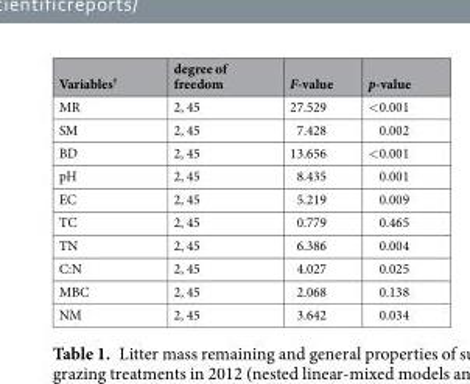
<table><thead><tr><td>Variables<sup>†</sup></td><td>degree of freedom</td><td>F-value</td><td>p-value</td></tr></thead><tbody><tr><td>MR</td><td>2, 45</td><td>27.529</td><td>&lt;0.001</td></tr><tr><td>SM</td><td>2, 45</td><td>7.428</td><td>0.002</td></tr><tr><td>BD</td><td>2, 45</td><td>13.656</td><td>&lt;0.001</td></tr><tr><td>pH</td><td>2, 45</td><td>8.435</td><td>0.001</td></tr><tr><td>EC</td><td>2, 45</td><td>5.219</td><td>0.009</td></tr><tr><td>TC</td><td>2, 45</td><td>0.779</td><td>0.465</td></tr><tr><td>TN</td><td>2, 45</td><td>6.386</td><td>0.004</td></tr><tr><td>C:N</td><td>2, 45</td><td>4.027</td><td>0.025</td></tr><tr><td>MBC</td><td>2, 45</td><td>2.068</td><td>0.138</td></tr><tr><td>NM</td><td>2, 45</td><td>3.642</td><td>0.034</td></tr></tbody></table>